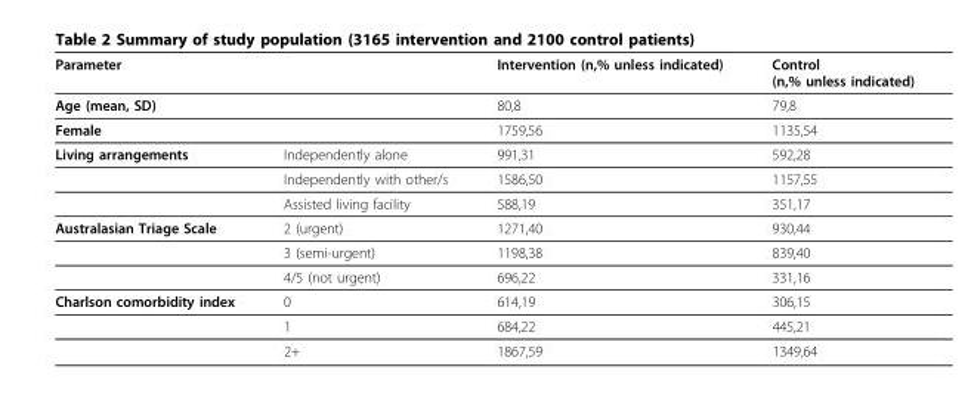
<table><thead><tr><td>Parameter</td><td></td><td>Intervention (n,% unless indicated)</td><td>Control (n,% unless indicated)</td></tr></thead><tbody><tr><td>Age (mean, SD)</td><td></td><td>80,8</td><td>79,8</td></tr><tr><td>Female</td><td></td><td>1759,56</td><td>1135,54</td></tr><tr><td rowspan="3">Living arrangements</td><td>Independently alone</td><td>991,31</td><td>592,28</td></tr><tr><td>Independently with other/s</td><td>1586,50</td><td>1157,55</td></tr><tr><td>Assisted living facility</td><td>588,19</td><td>351,17</td></tr><tr><td rowspan="3">Australasian Triage Scale</td><td>2 (urgent)</td><td>1271,40</td><td>930,44</td></tr><tr><td>3 (semi-urgent)</td><td>1198,38</td><td>839,40</td></tr><tr><td>4/5 (not urgent)</td><td>696,22</td><td>331,16</td></tr><tr><td rowspan="3">Charlson comorbidity index</td><td>0</td><td>614,19</td><td>306,15</td></tr><tr><td>1</td><td>684,22</td><td>445,21</td></tr><tr><td>2+</td><td>1867,59</td><td>1349,64</td></tr></tbody></table>